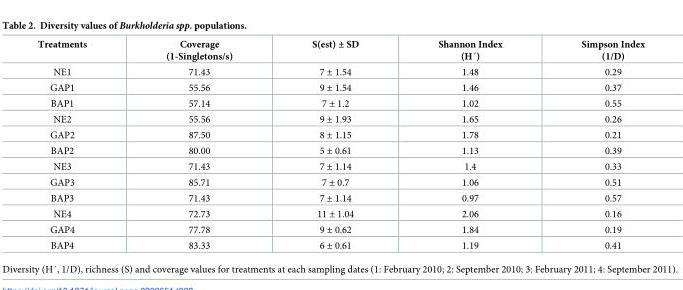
<table><thead><tr><td>Treatments</td><td>Coverage (1-Singletons/s)</td><td>S(est) ± SD</td><td>Shannon Index (H´)</td><td>Simpson Index (1/D)</td></tr></thead><tbody><tr><td>NE1</td><td>71.43</td><td>7 ± 1.54</td><td>1.48</td><td>0.29</td></tr><tr><td>GAP1</td><td>55.56</td><td>9 ± 1.54</td><td>1.46</td><td>0.37</td></tr><tr><td>BAP1</td><td>57.14</td><td>7 ± 1.2</td><td>1.02</td><td>0.55</td></tr><tr><td>NE2</td><td>55.56</td><td>9 ± 1.93</td><td>1.65</td><td>0.26</td></tr><tr><td>GAP2</td><td>87.50</td><td>8 ± 1.15</td><td>1.78</td><td>0.21</td></tr><tr><td>BAP2</td><td>80.00</td><td>5 ± 0.61</td><td>1.13</td><td>0.39</td></tr><tr><td>NE3</td><td>71.43</td><td>7 ± 1.14</td><td>1.4</td><td>0.33</td></tr><tr><td>GAP3</td><td>85.71</td><td>7 ± 0.7</td><td>1.06</td><td>0.51</td></tr><tr><td>BAP3</td><td>71.43</td><td>7 ± 1.14</td><td>0.97</td><td>0.57</td></tr><tr><td>NE4</td><td>72.73</td><td>11 ± 1.04</td><td>2.06</td><td>0.16</td></tr><tr><td>GAP4</td><td>77.78</td><td>9 ± 0.62</td><td>1.84</td><td>0.19</td></tr><tr><td>BAP4</td><td>83.33</td><td>6 ± 0.61</td><td>1.19</td><td>0.41</td></tr></tbody></table>